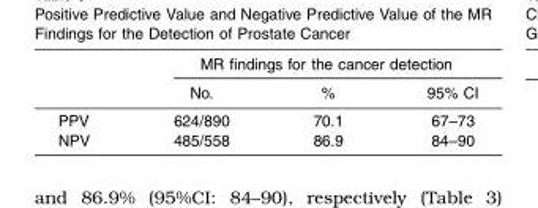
<table><thead><tr><td rowspan="2"></td><td colspan="3">MR findings for the cancer detection</td></tr><tr><td>No.</td><td>%</td><td>95% CI</td></tr></thead><tbody><tr><td>PPV</td><td>624/890</td><td>70.1</td><td>67–73</td></tr><tr><td>NPV</td><td>485/558</td><td>86.9</td><td>84–90</td></tr></tbody></table>